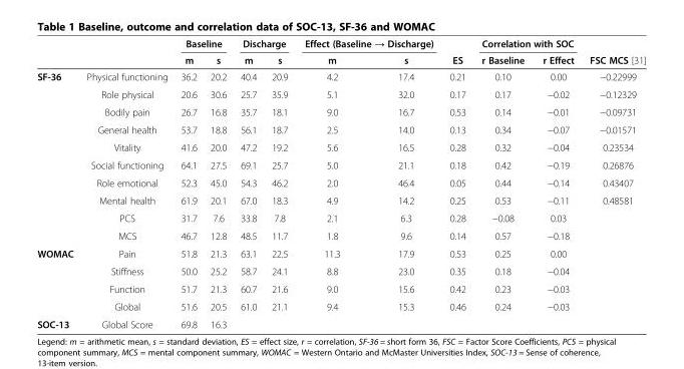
<table><thead><tr><td rowspan="2"></td><td rowspan="2"></td><td colspan="2">Baseline</td><td colspan="2">Discharge</td><td colspan="2">Effect (Baseline → Discharge)</td><td rowspan="2">ES</td><td colspan="2">Correlation with SOC</td><td rowspan="2">FSC MCS [31]</td></tr><tr><td>m</td><td>s</td><td>m</td><td>s</td><td>m</td><td>s</td><td>r Baseline</td><td>r Effect</td></tr></thead><tbody><tr><td rowspan="10">SF-36</td><td>Physical functioning</td><td>36.2</td><td>20.2</td><td>40.4</td><td>20.9</td><td>4.2</td><td>17.4</td><td>0.21</td><td>0.10</td><td>0.00</td><td>−0.22999</td></tr><tr><td>Role physical</td><td>20.6</td><td>30.6</td><td>25.7</td><td>35.9</td><td>5.1</td><td>32.0</td><td>0.17</td><td>0.17</td><td>−0.02</td><td>−0.12329</td></tr><tr><td>Bodily pain</td><td>26.7</td><td>16.8</td><td>35.7</td><td>18.1</td><td>9.0</td><td>16.7</td><td>0.53</td><td>0.14</td><td>−0.01</td><td>−0.09731</td></tr><tr><td>General health</td><td>53.7</td><td>18.8</td><td>56.1</td><td>18.7</td><td>2.5</td><td>14.0</td><td>0.13</td><td>0.34</td><td>−0.07</td><td>−0.01571</td></tr><tr><td>Vitality</td><td>41.6</td><td>20.0</td><td>47.2</td><td>19.2</td><td>5.6</td><td>16.5</td><td>0.28</td><td>0.32</td><td>−0.04</td><td>0.23534</td></tr><tr><td>Social functioning</td><td>64.1</td><td>27.5</td><td>69.1</td><td>25.7</td><td>5.0</td><td>21.1</td><td>0.18</td><td>0.42</td><td>−0.19</td><td>0.26876</td></tr><tr><td>Role emotional</td><td>52.3</td><td>45.0</td><td>54.3</td><td>46.2</td><td>2.0</td><td>46.4</td><td>0.05</td><td>0.44</td><td>−0.14</td><td>0.43407</td></tr><tr><td>Mental health</td><td>61.9</td><td>20.1</td><td>67.0</td><td>18.3</td><td>4.9</td><td>14.2</td><td>0.25</td><td>0.53</td><td>−0.11</td><td>0.48581</td></tr><tr><td>PCS</td><td>31.7</td><td>7.6</td><td>33.8</td><td>7.8</td><td>2.1</td><td>6.3</td><td>0.28</td><td>−0.08</td><td>0.03</td><td></td></tr><tr><td>MCS</td><td>46.7</td><td>12.8</td><td>48.5</td><td>11.7</td><td>1.8</td><td>9.6</td><td>0.14</td><td>0.57</td><td>−0.18</td><td></td></tr><tr><td rowspan="4">WOMAC</td><td>Pain</td><td>51.8</td><td>21.3</td><td>63.1</td><td>22.5</td><td>11.3</td><td>17.9</td><td>0.53</td><td>0.25</td><td>0.00</td><td></td></tr><tr><td>Stiffness</td><td>50.0</td><td>25.2</td><td>58.7</td><td>24.1</td><td>8.8</td><td>23.0</td><td>0.35</td><td>0.18</td><td>−0.04</td><td></td></tr><tr><td>Function</td><td>51.7</td><td>21.3</td><td>60.7</td><td>21.6</td><td>9.0</td><td>15.6</td><td>0.42</td><td>0.23</td><td>−0.03</td><td></td></tr><tr><td>Global</td><td>51.6</td><td>20.5</td><td>61.0</td><td>21.1</td><td>9.4</td><td>15.3</td><td>0.46</td><td>0.24</td><td>−0.03</td><td></td></tr><tr><td>SOC-13</td><td>Global Score</td><td>69.8</td><td>16.3</td><td></td><td></td><td></td><td></td><td></td><td></td><td></td><td></td></tr></tbody></table>